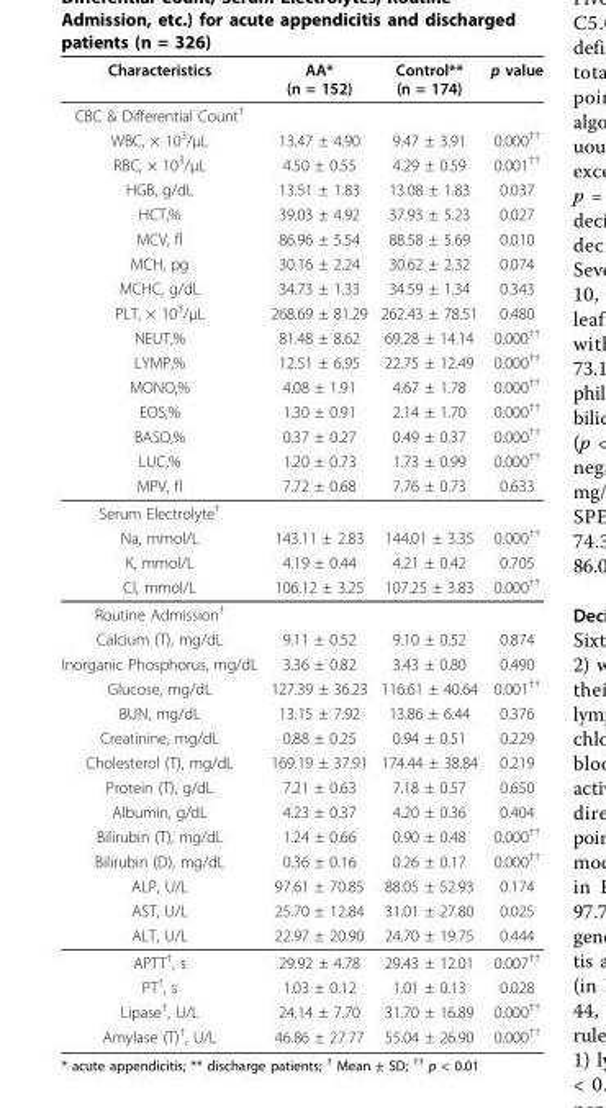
<table><thead><tr><td>Characteristics</td><td>AA* (n = 152)</td><td>Control** (n = 174)</td><td>p value</td></tr></thead><tbody><tr><td colspan="4">CBC &amp; Differential Count<sup>†</sup></td></tr><tr><td>WBC, × 10<sup>3</sup>/μL</td><td>13.47 ± 4.90</td><td>9.47 ± 3.91</td><td>0.000<sup>††</sup></td></tr><tr><td>RBC, × 10<sup>3</sup>/μL</td><td>4.50 ± 0.55</td><td>4.29 ± 0.59</td><td>0.001<sup>††</sup></td></tr><tr><td>HGB, g/dL</td><td>13.51 ± 1.83</td><td>13.08 ± 1.83</td><td>0.037</td></tr><tr><td>HCT,%</td><td>39.03 ± 4.92</td><td>37.93 ± 5.23</td><td>0.027</td></tr><tr><td>MCV, fl</td><td>86.96 ± 5.54</td><td>88.58 ± 5.69</td><td>0.010</td></tr><tr><td>MCH, pg</td><td>30.16 ± 2.24</td><td>30.62 ± 2.32</td><td>0.074</td></tr><tr><td>MCHC, g/dL</td><td>34.73 ± 1.33</td><td>34.59 ± 1.34</td><td>0.343</td></tr><tr><td>PLT, × 10<sup>3</sup>/μL</td><td>268.69 ± 81.29</td><td>262.43 ± 78.51</td><td>0.480</td></tr><tr><td>NEUT,%</td><td>81.48 ± 8.62</td><td>69.28 ± 14.14</td><td>0.000<sup>††</sup></td></tr><tr><td>LYMP,%</td><td>12.51 ± 6.95</td><td>22.75 ± 12.49</td><td>0.000<sup>††</sup></td></tr><tr><td>MONO,%</td><td>4.08 ± 1.91</td><td>4.67 ± 1.78</td><td>0.000<sup>††</sup></td></tr><tr><td>EOS,%</td><td>1.30 ± 0.91</td><td>2.14 ± 1.70</td><td>0.000<sup>††</sup></td></tr><tr><td>BASO,%</td><td>0.37 ± 0.27</td><td>0.49 ± 0.37</td><td>0.000<sup>††</sup></td></tr><tr><td>LUC,%</td><td>1.20 ± 0.73</td><td>1.73 ± 0.99</td><td>0.000<sup>††</sup></td></tr><tr><td>MPV, fl</td><td>7.72 ± 0.68</td><td>7.76 ± 0.73</td><td>0.633</td></tr><tr><td colspan="4">Serum Electrolyte<sup>†</sup></td></tr><tr><td>Na, mmol/L</td><td>143.11 ± 2.83</td><td>144.01 ± 3.35</td><td>0.000<sup>††</sup></td></tr><tr><td>K, mmol/L</td><td>4.19 ± 0.44</td><td>4.21 ± 0.42</td><td>0.705</td></tr><tr><td>Cl, mmol/L</td><td>106.12 ± 3.25</td><td>107.25 ± 3.83</td><td>0.000<sup>††</sup></td></tr><tr><td colspan="4">Routine Admission<sup>†</sup></td></tr><tr><td>Calcium (T), mg/dL</td><td>9.11 ± 0.52</td><td>9.10 ± 0.52</td><td>0.874</td></tr><tr><td>Inorganic Phosphorus, mg/dL</td><td>3.36 ± 0.82</td><td>3.43 ± 0.80</td><td>0.490</td></tr><tr><td>Glucose, mg/dL</td><td>127.39 ± 36.23</td><td>116.61 ± 40.64</td><td>0.001<sup>††</sup></td></tr><tr><td>BUN, mg/dL</td><td>13.15 ± 7.92</td><td>13.86 ± 6.44</td><td>0.376</td></tr><tr><td>Creatinine, mg/dL</td><td>0.88 ± 0.25</td><td>0.94 ± 0.51</td><td>0.229</td></tr><tr><td>Cholesterol (T), mg/dL</td><td>169.19 ± 37.91</td><td>174.44 ± 38.84</td><td>0.219</td></tr><tr><td>Protein (T), g/dL</td><td>7.21 ± 0.63</td><td>7.18 ± 0.57</td><td>0.650</td></tr><tr><td>Albumin, g/dL</td><td>4.23 ± 0.37</td><td>4.20 ± 0.36</td><td>0.404</td></tr><tr><td>Bilirubin (T), mg/dL</td><td>1.24 ± 0.66</td><td>0.90 ± 0.48</td><td>0.000<sup>††</sup></td></tr><tr><td>Bilirubin (D), mg/dL</td><td>0.36 ± 0.16</td><td>0.26 ± 0.17</td><td>0.000<sup>††</sup></td></tr><tr><td>ALP, U/L</td><td>97.61 ± 70.85</td><td>88.05 ± 52.93</td><td>0.174</td></tr><tr><td>AST, U/L</td><td>25.70 ± 12.84</td><td>31.01 ± 27.80</td><td>0.025</td></tr><tr><td>ALT, U/L</td><td>22.97 ± 20.90</td><td>24.70 ± 19.75</td><td>0.444</td></tr><tr><td>APTT<sup>†</sup>, s</td><td>29.92 ± 4.78</td><td>29.43 ± 12.01</td><td>0.007<sup>††</sup></td></tr><tr><td>PT<sup>†</sup>, s</td><td>1.03 ± 0.12</td><td>1.01 ± 0.13</td><td>0.028</td></tr><tr><td>Lipase<sup>†</sup>, U/L</td><td>24.14 ± 7.70</td><td>31.70 ± 16.89</td><td>0.000<sup>††</sup></td></tr><tr><td>Amylase (T)<sup>†</sup>, U/L</td><td>46.86 ± 27.77</td><td>55.04 ± 26.90</td><td>0.000<sup>††</sup></td></tr></tbody></table>